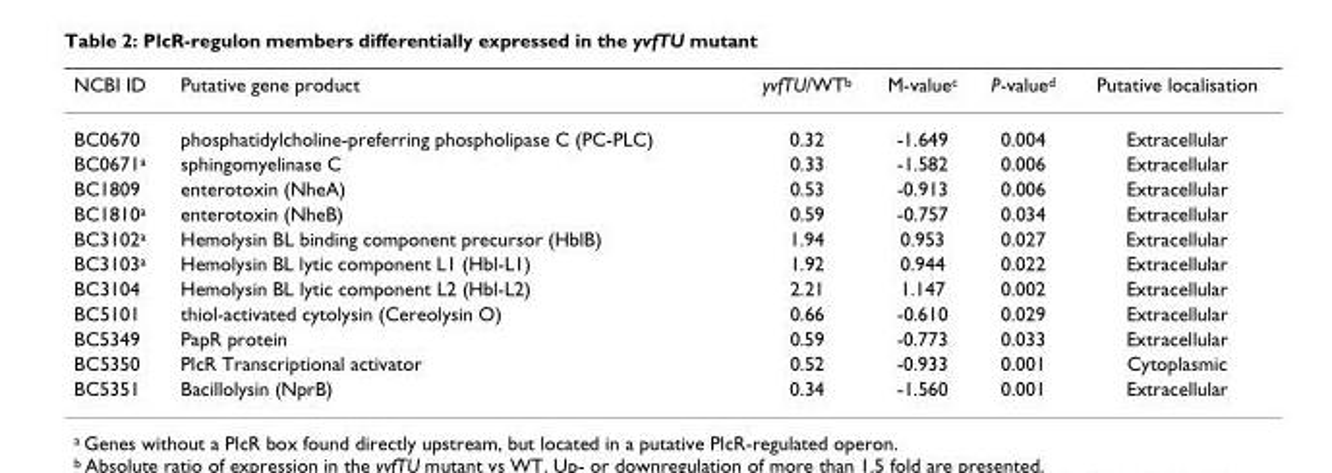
<table><thead><tr><td>NCBI ID</td><td>Putative gene product</td><td>yvfTU/WT<sup>b</sup></td><td>M-value<sup>c</sup></td><td>P-value<sup>d</sup></td><td>Putative localisation</td></tr></thead><tbody><tr><td>BC0670</td><td>phosphatidylcholine-preferring phospholipase C (PC-PLC)</td><td>0.32</td><td>-1.649</td><td>0.004</td><td>Extracellular</td></tr><tr><td>BC0671<sup>a</sup></td><td>sphingomyelinase C</td><td>0.33</td><td>-1.582</td><td>0.006</td><td>Extracellular</td></tr><tr><td>BC1809</td><td>enterotoxin (NheA)</td><td>0.53</td><td>-0.913</td><td>0.006</td><td>Extracellular</td></tr><tr><td>BC1810<sup>a</sup></td><td>enterotoxin (NheB)</td><td>0.59</td><td>-0.757</td><td>0.034</td><td>Extracellular</td></tr><tr><td>BC3102<sup>a</sup></td><td>Hemolysin BL binding component precursor (HblB)</td><td>1.94</td><td>0.953</td><td>0.027</td><td>Extracellular</td></tr><tr><td>BC3103<sup>a</sup></td><td>Hemolysin BL lytic component L1 (Hbl-L1)</td><td>1.92</td><td>0.944</td><td>0.022</td><td>Extracellular</td></tr><tr><td>BC3104</td><td>Hemolysin BL lytic component L2 (Hbl-L2)</td><td>2.21</td><td>1.147</td><td>0.002</td><td>Extracellular</td></tr><tr><td>BC5101</td><td>thiol-activated cytolysin (Cereolysin O)</td><td>0.66</td><td>-0.610</td><td>0.029</td><td>Extracellular</td></tr><tr><td>BC5349</td><td>PapR protein</td><td>0.59</td><td>-0.773</td><td>0.033</td><td>Extracellular</td></tr><tr><td>BC5350</td><td>PlcR Transcriptional activator</td><td>0.52</td><td>-0.933</td><td>0.001</td><td>Cytoplasmic</td></tr><tr><td>BC5351</td><td>Bacillolysin (NprB)</td><td>0.34</td><td>-1.560</td><td>0.001</td><td>Extracellular</td></tr></tbody></table>